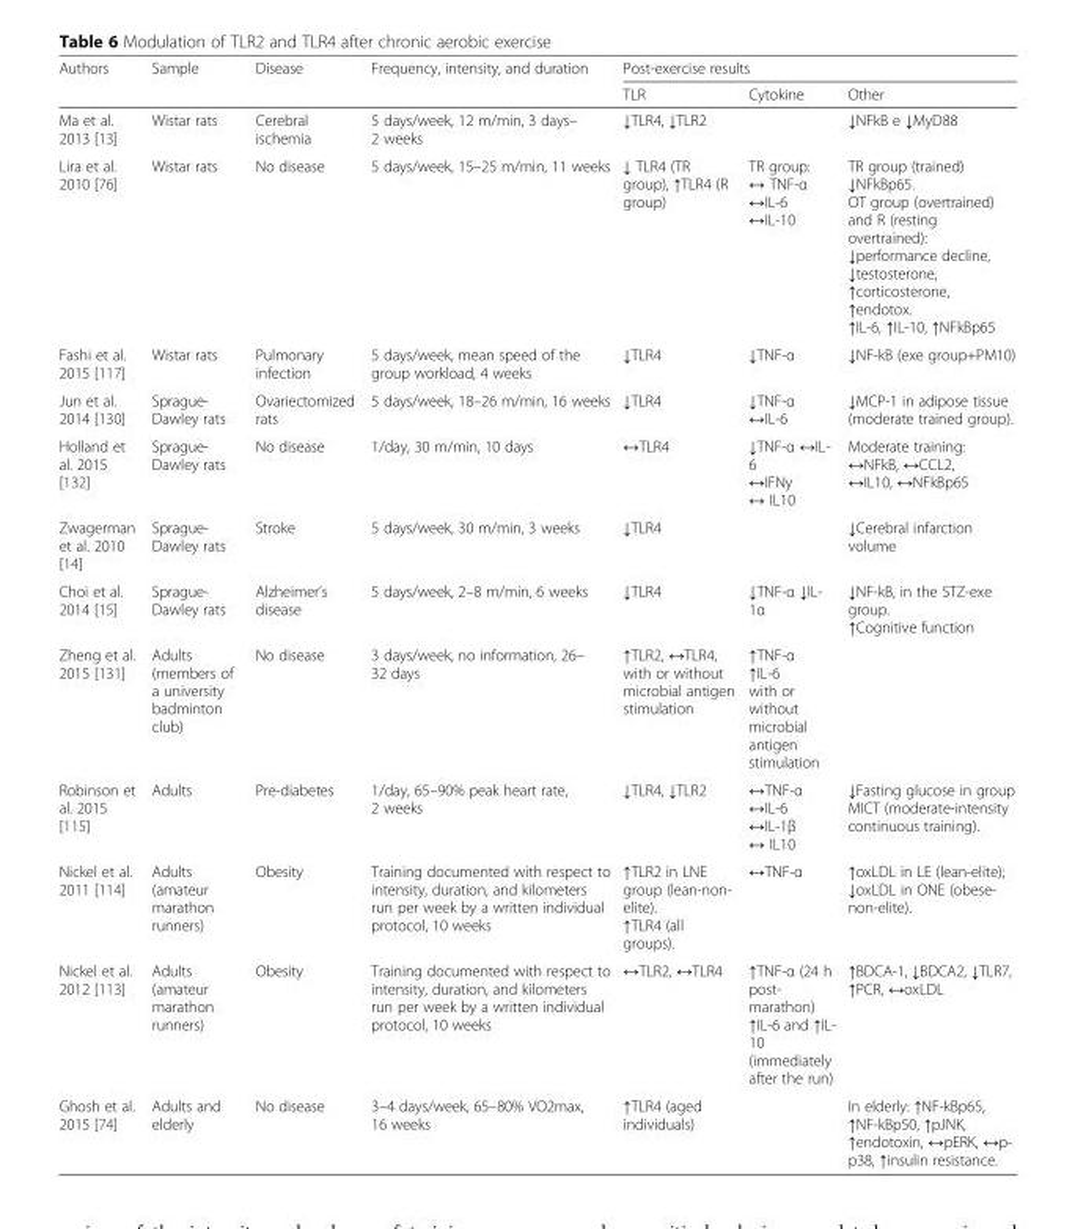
<table><thead><tr><td rowspan="2">Authors</td><td rowspan="2">Sample</td><td rowspan="2">Disease</td><td rowspan="2">Frequency, intensity, and duration</td><td colspan="3">Post-exercise results</td></tr><tr><td>TLR</td><td>Cytokine</td><td>Other</td></tr></thead><tbody><tr><td>Ma et al. 2013 [13]</td><td>Wistar rats</td><td>Cerebral ischemia</td><td>5 days/week, 12 m/min, 3 days– 2 weeks</td><td>↓TLR4, ↓TLR2</td><td></td><td>↓NFkB e ↓MyD88</td></tr><tr><td>Lira et al. 2010 [76]</td><td>Wistar rats</td><td>No disease</td><td>5 days/week, 15–25 m/min, 11 weeks</td><td>↓ TLR4 (TR group), ↑TLR4 (R group)</td><td>TR group: ↔ TNF-α ↔IL-6 ↔IL-10</td><td>TR group (trained) ↓NFkBp65. OT group (overtrained) and R (resting overtrained): ↓performance decline, ↓testosterone, ↑corticosterone, ↑endotox. ↑IL-6, ↑IL-10, ↑NFkBp65</td></tr><tr><td>Fashi et al. 2015 [117]</td><td>Wistar rats</td><td>Pulmonary infection</td><td>5 days/week, mean speed of the group workload, 4 weeks</td><td>↓TLR4</td><td>↓TNF-α</td><td>↓NF-kB (exe group+PM10)</td></tr><tr><td>Jun et al. 2014 [130]</td><td>Sprague- Dawley rats</td><td>Ovariectomized rats</td><td>5 days/week, 18–26 m/min, 16 weeks</td><td>↓TLR4</td><td>↓TNF-α ↔IL-6</td><td>↓MCP-1 in adipose tissue (moderate trained group).</td></tr><tr><td>Holland et al. 2015 [132]</td><td>Sprague- Dawley rats</td><td>No disease</td><td>1/day, 30 m/min, 10 days</td><td>↔TLR4</td><td>↓TNF-α ↔IL- 6 ↔IFNy ↔ IL10</td><td>Moderate training: ↔NFkB, ↔CCL2, ↔IL10, ↔NFkBp65</td></tr><tr><td>Zwagerman et al. 2010 [14]</td><td>Sprague- Dawley rats</td><td>Stroke</td><td>5 days/week, 30 m/min, 3 weeks</td><td>↓TLR4</td><td></td><td>↓Cerebral infarction volume</td></tr><tr><td>Choi et al. 2014 [15]</td><td>Sprague- Dawley rats</td><td>Alzheimer’s disease</td><td>5 days/week, 2–8 m/min, 6 weeks</td><td>↓TLR4</td><td>↓TNF-α ↓IL- 1α</td><td>↓NF-kB, in the STZ-exe group. ↑Cognitive function</td></tr><tr><td>Zheng et al. 2015 [131]</td><td>Adults (members of a university badminton club)</td><td>No disease</td><td>3 days/week, no information, 26– 32 days</td><td>↑TLR2, ↔TLR4, with or without microbial antigen stimulation</td><td>↑TNF-α ↑IL-6 with or without microbial antigen stimulation</td><td></td></tr><tr><td>Robinson et al. 2015 [115]</td><td>Adults</td><td>Pre-diabetes</td><td>1/day, 65–90% peak heart rate, 2 weeks</td><td>↓TLR4, ↓TLR2</td><td>↔TNF-α ↔IL-6 ↔IL-1β ↔ IL10</td><td>↓Fasting glucose in group MICT (moderate-intensity continuous training).</td></tr><tr><td>Nickel et al. 2011 [114]</td><td>Adults (amateur marathon runners)</td><td>Obesity</td><td>Training documented with respect to intensity, duration, and kilometers run per week by a written individual protocol, 10 weeks</td><td>↑TLR2 in LNE group (lean-non- elite). ↑TLR4 (all groups).</td><td>↔TNF-α</td><td>↑oxLDL in LE (lean-elite); ↓oxLDL in ONE (obese- non-elite).</td></tr><tr><td>Nickel et al. 2012 [113]</td><td>Adults (amateur marathon runners)</td><td>Obesity</td><td>Training documented with respect to intensity, duration, and kilometers run per week by a written individual protocol, 10 weeks</td><td>↔TLR2, ↔TLR4</td><td>↑TNF-α (24 h post- marathon) ↑IL-6 and ↑IL- 10 (immediately after the run)</td><td>↑BDCA-1, ↓BDCA2, ↓TLR7, ↑PCR, ↔oxLDL</td></tr><tr><td>Ghosh et al. 2015 [74]</td><td>Adults and elderly</td><td>No disease</td><td>3–4 days/week, 65–80% VO2max, 16 weeks</td><td>↑TLR4 (aged individuals)</td><td></td><td>In elderly: ↑NF-kBp65, ↑NF-kBp50, ↑pJNK, ↑endotoxin, ↔pERK, ↔p- p38, ↑insulin resistance.</td></tr></tbody></table>